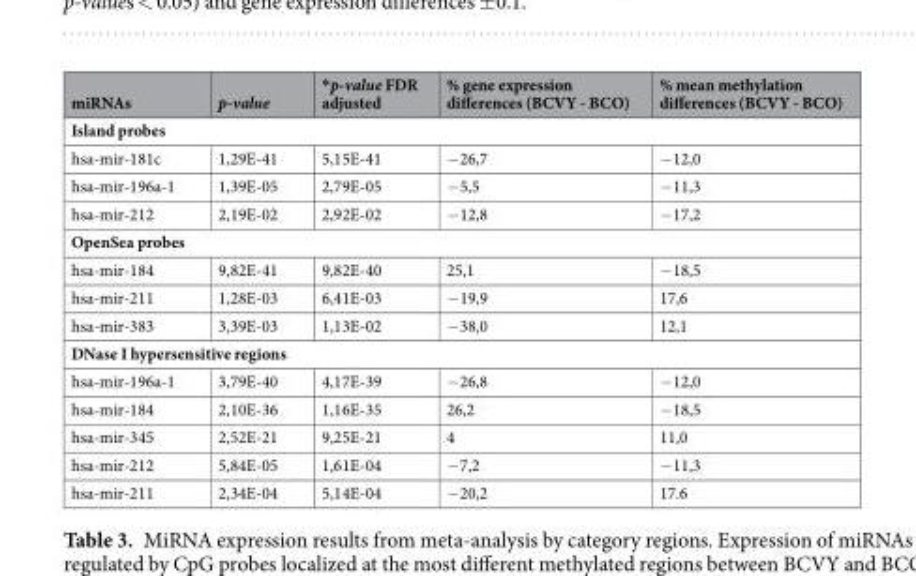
<table><thead><tr><td>miRNAs</td><td>p-value</td><td>*p-value FDR adjusted</td><td>% gene expression differences (BCVY - BCO)</td><td>% mean methylation differences (BCVY - BCO)</td></tr></thead><tbody><tr><td colspan="5">Island probes</td></tr><tr><td>hsa-mir-181c</td><td>1,29E-41</td><td>5,15E-41</td><td>−26,7</td><td>−12,0</td></tr><tr><td>hsa-mir-196a-1</td><td>1,39E-05</td><td>2,79E-05</td><td>−5,5</td><td>−11,3</td></tr><tr><td>hsa-mir-212</td><td>2,19E-02</td><td>2,92E-02</td><td>−12,8</td><td>−17,2</td></tr><tr><td colspan="5">OpenSea probes</td></tr><tr><td>hsa-mir-184</td><td>9,82E-41</td><td>9,82E-40</td><td>25,1</td><td>−18,5</td></tr><tr><td>hsa-mir-211</td><td>1,28E-03</td><td>6,41E-03</td><td>−19,9</td><td>17,6</td></tr><tr><td>hsa-mir-383</td><td>3,39E-03</td><td>1,13E-02</td><td>−38,0</td><td>12,1</td></tr><tr><td colspan="5">DNase I hypersensitive regions</td></tr><tr><td>hsa-mir-196a-1</td><td>3,79E-40</td><td>4,17E-39</td><td>−26,8</td><td>−12,0</td></tr><tr><td>hsa-mir-184</td><td>2,10E-36</td><td>1,16E-35</td><td>26,2</td><td>−18,5</td></tr><tr><td>hsa-mir-345</td><td>2,52E-21</td><td>9,25E-21</td><td>4</td><td>11,0</td></tr><tr><td>hsa-mir-212</td><td>5,84E-05</td><td>1,61E-04</td><td>−7,2</td><td>−11,3</td></tr><tr><td>hsa-mir-211</td><td>2,34E-04</td><td>5,14E-04</td><td>−20,2</td><td>17.6</td></tr></tbody></table>